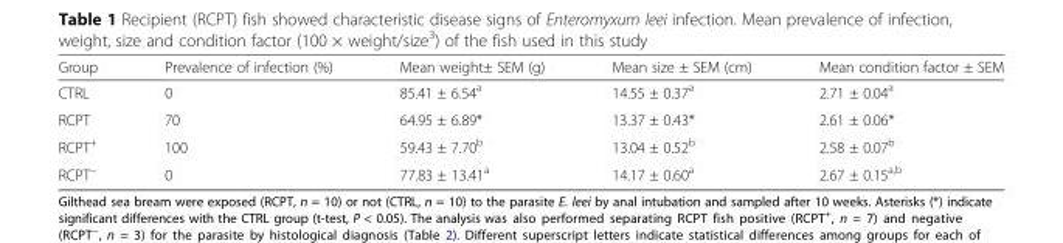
<table><thead><tr><td>Group</td><td>Prevalence of infection (%)</td><td>Mean weight± SEM (g)</td><td>Mean size ± SEM (cm)</td><td>Mean condition factor ± SEM</td></tr></thead><tbody><tr><td>CTRL</td><td>0</td><td>85.41 ± 6.54<sup>a</sup></td><td>14.55 ± 0.37<sup>a</sup></td><td>2.71 ± 0.04<sup>a</sup></td></tr><tr><td>RCPT</td><td>70</td><td>64.95 ± 6.89*</td><td>13.37 ± 0.43*</td><td>2.61 ± 0.06*</td></tr><tr><td>RCPT<sup>+</sup></td><td>100</td><td>59.43 ± 7.70<sup>b</sup></td><td>13.04 ± 0.52<sup>b</sup></td><td>2.58 ± 0.07<sup>b</sup></td></tr><tr><td>RCPT<sup>−</sup></td><td>0</td><td>77.83 ± 13.41<sup>a</sup></td><td>14.17 ± 0.60<sup>a</sup></td><td>2.67 ± 0.15<sup>a,b</sup></td></tr></tbody></table>